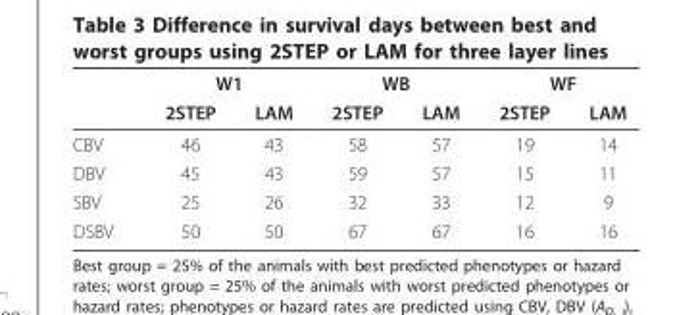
<table><thead><tr><td rowspan="2"></td><td colspan="2">W1</td><td colspan="2">WB</td><td colspan="2">WF</td></tr><tr><td>2STEP</td><td>LAM</td><td>2STEP</td><td>LAM</td><td>2STEP</td><td>LAM</td></tr></thead><tbody><tr><td>CBV</td><td>46</td><td>43</td><td>58</td><td>57</td><td>19</td><td>14</td></tr><tr><td>DBV</td><td>45</td><td>43</td><td>59</td><td>57</td><td>15</td><td>11</td></tr><tr><td>SBV</td><td>25</td><td>26</td><td>32</td><td>33</td><td>12</td><td>9</td></tr><tr><td>DSBV</td><td>50</td><td>50</td><td>67</td><td>67</td><td>16</td><td>16</td></tr></tbody></table>